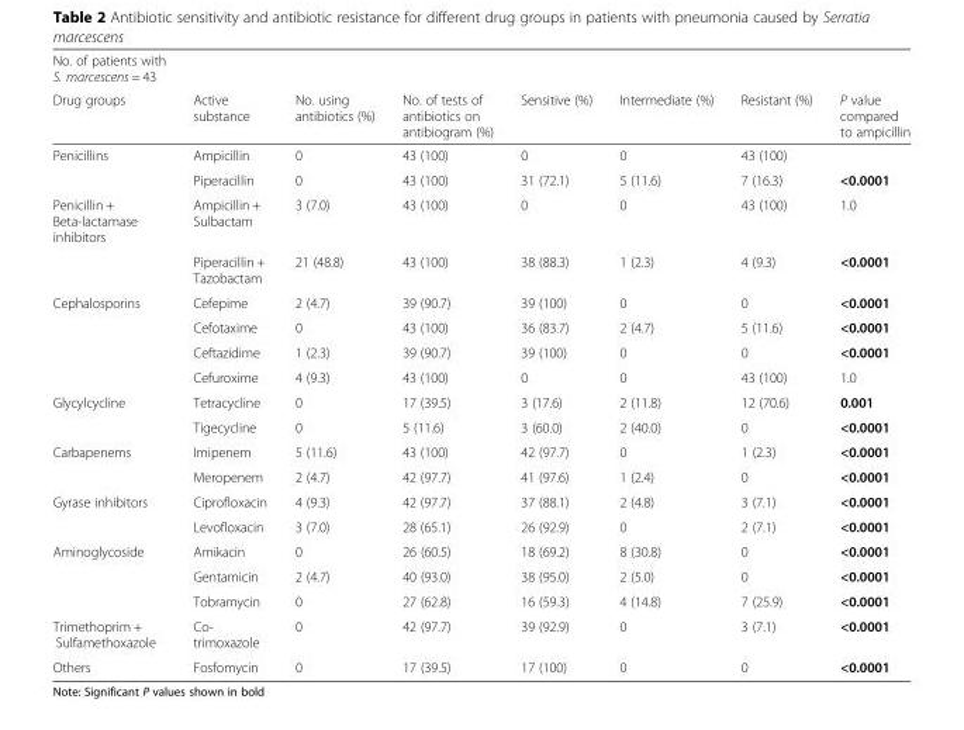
<table><thead><tr><td rowspan="2">No. of patients with S. marcescens = 43 Drug groups</td><td rowspan="2">Active substance</td><td rowspan="2">No. using antibiotics (%)</td><td rowspan="2">No. of tests of antibiotics on antibiogram (%)</td><td rowspan="2">Sensitive (%)</td><td rowspan="2">Intermediate (%)</td><td rowspan="2">Resistant (%)</td><td rowspan="2">P value compared to ampicillin</td></tr><tr></tr></thead><tbody><tr><td rowspan="2">Penicillins</td><td>Ampicillin</td><td>0</td><td>43 (100)</td><td>0</td><td>0</td><td>43 (100)</td><td></td></tr><tr><td>Piperacillin</td><td>0</td><td>43 (100)</td><td>31 (72.1)</td><td>5 (11.6)</td><td>7 (16.3)</td><td>&lt;0.0001</td></tr><tr><td rowspan="2">Penicillin + Beta-lactamase inhibitors</td><td>Ampicillin + Sulbactam</td><td>3 (7.0)</td><td>43 (100)</td><td>0</td><td>0</td><td>43 (100)</td><td>1.0</td></tr><tr><td>Piperacillin + Tazobactam</td><td>21 (48.8)</td><td>43 (100)</td><td>38 (88.3)</td><td>1 (2.3)</td><td>4 (9.3)</td><td>&lt;0.0001</td></tr><tr><td rowspan="4">Cephalosporins</td><td>Cefepime</td><td>2 (4.7)</td><td>39 (90.7)</td><td>39 (100)</td><td>0</td><td>0</td><td>&lt;0.0001</td></tr><tr><td>Cefotaxime</td><td>0</td><td>43 (100)</td><td>36 (83.7)</td><td>2 (4.7)</td><td>5 (11.6)</td><td>&lt;0.0001</td></tr><tr><td>Ceftazidime</td><td>1 (2.3)</td><td>39 (90.7)</td><td>39 (100)</td><td>0</td><td>0</td><td>&lt;0.0001</td></tr><tr><td>Cefuroxime</td><td>4 (9.3)</td><td>43 (100)</td><td>0</td><td>0</td><td>43 (100)</td><td>1.0</td></tr><tr><td rowspan="2">Glycylcycline</td><td>Tetracycline</td><td>0</td><td>17 (39.5)</td><td>3 (17.6)</td><td>2 (11.8)</td><td>12 (70.6)</td><td>0.001</td></tr><tr><td>Tigecycline</td><td>0</td><td>5 (11.6)</td><td>3 (60.0)</td><td>2 (40.0)</td><td>0</td><td>&lt;0.0001</td></tr><tr><td rowspan="2">Carbapenems</td><td>Imipenem</td><td>5 (11.6)</td><td>43 (100)</td><td>42 (97.7)</td><td>0</td><td>1 (2.3)</td><td>&lt;0.0001</td></tr><tr><td>Meropenem</td><td>2 (4.7)</td><td>42 (97.7)</td><td>41 (97.6)</td><td>1 (2.4)</td><td>0</td><td>&lt;0.0001</td></tr><tr><td rowspan="2">Gyrase inhibitors</td><td>Ciprofloxacin</td><td>4 (9.3)</td><td>42 (97.7)</td><td>37 (88.1)</td><td>2 (4.8)</td><td>3 (7.1)</td><td>&lt;0.0001</td></tr><tr><td>Levofloxacin</td><td>3 (7.0)</td><td>28 (65.1)</td><td>26 (92.9)</td><td>0</td><td>2 (7.1)</td><td>&lt;0.0001</td></tr><tr><td rowspan="3">Aminoglycoside</td><td>Amikacin</td><td>0</td><td>26 (60.5)</td><td>18 (69.2)</td><td>8 (30.8)</td><td>0</td><td>&lt;0.0001</td></tr><tr><td>Gentamicin</td><td>2 (4.7)</td><td>40 (93.0)</td><td>38 (95.0)</td><td>2 (5.0)</td><td>0</td><td>&lt;0.0001</td></tr><tr><td>Tobramycin</td><td>0</td><td>27 (62.8)</td><td>16 (59.3)</td><td>4 (14.8)</td><td>7 (25.9)</td><td>&lt;0.0001</td></tr><tr><td>Trimethoprim + Sulfamethoxazole</td><td>Co- trimoxazole</td><td>0</td><td>42 (97.7)</td><td>39 (92.9)</td><td>0</td><td>3 (7.1)</td><td>&lt;0.0001</td></tr><tr><td>Others</td><td>Fosfomycin</td><td>0</td><td>17 (39.5)</td><td>17 (100)</td><td>0</td><td>0</td><td>&lt;0.0001</td></tr></tbody></table>